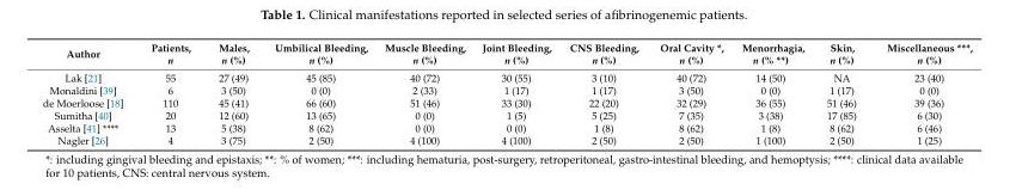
<table><thead><tr><td>Author</td><td>Patients, n</td><td>Males, n (%)</td><td>Umbilical Bleeding, n (%)</td><td>Muscle Bleeding, n (%)</td><td>Joint Bleeding, n (%)</td><td>CNS Bleeding, n (%)</td><td>Oral Cavity *, n (%)</td><td>Menorrhagia, n (% **)</td><td>Skin, n (%)</td><td>Miscellaneous ***, n (%)</td></tr></thead><tbody><tr><td>Lak [21]</td><td>55</td><td>27 (49)</td><td>45 (85)</td><td>40 (72)</td><td>30 (55)</td><td>3 (10)</td><td>40 (72)</td><td>14 (50)</td><td>NA</td><td>23 (40)</td></tr><tr><td>Monaldini [39]</td><td>6</td><td>3 (50)</td><td>0 (0)</td><td>2 (33)</td><td>1 (17)</td><td>1 (17)</td><td>3 (50)</td><td>0 (0)</td><td>1 (17)</td><td>0 (0)</td></tr><tr><td>de Moerloose [18]</td><td>110</td><td>45 (41)</td><td>66 (60)</td><td>51 (46)</td><td>33 (30)</td><td>22 (20)</td><td>32 (29)</td><td>36 (55)</td><td>51 (46)</td><td>39 (36)</td></tr><tr><td>Sumitha [40]</td><td>20</td><td>12 (60)</td><td>13 (65)</td><td>0 (0)</td><td>1 (5)</td><td>5 (25)</td><td>7 (35)</td><td>3 (38)</td><td>17 (85)</td><td>6 (30)</td></tr><tr><td>Asselta [41] ****</td><td>13</td><td>5 (38)</td><td>8 (62)</td><td>0 (0)</td><td>0 (0)</td><td>1 (8)</td><td>8 (62)</td><td>1 (8)</td><td>8 (62)</td><td>6 (46)</td></tr><tr><td>Nagler [26]</td><td>4</td><td>3 (75)</td><td>2 (50)</td><td>4 (100)</td><td>4 (100)</td><td>2 (50)</td><td>2 (50)</td><td>1 (100)</td><td>2 (50)</td><td>1 (25)</td></tr></tbody></table>